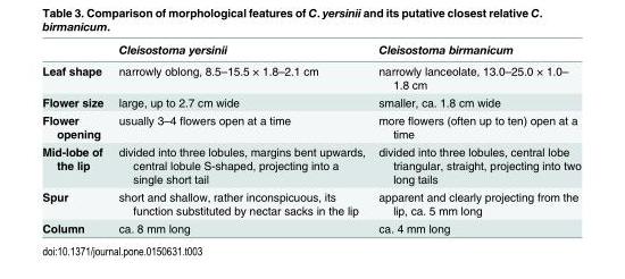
<table><thead><tr><td></td><td>Cleisostoma yersinii</td><td>Cleisostoma birmanicum</td></tr></thead><tbody><tr><td>Leaf shape</td><td>narrowly oblong, 8.5–15.5 × 1.8–2.1 cm</td><td>narrowly lanceolate, 13.0–25.0 × 1.0– 1.8 cm</td></tr><tr><td>Flower size</td><td>large, up to 2.7 cm wide</td><td>smaller, ca. 1.8 cm wide</td></tr><tr><td>Flower opening</td><td>usually 3–4 flowers open at a time</td><td>more flowers (often up to ten) open at a time</td></tr><tr><td>Mid-lobe of the lip</td><td>divided into three lobules, margins bent upwards, central lobule S-shaped, projecting into a single short tail</td><td>divided into three lobules, central lobe triangular, straight, projecting into two long tails</td></tr><tr><td>Spur</td><td>short and shallow, rather inconspicuous, its function substituted by nectar sacks in the lip</td><td>apparent and clearly projecting from the lip, ca. 5 mm long</td></tr><tr><td>Column</td><td>ca. 8 mm long</td><td>ca. 4 mm long</td></tr></tbody></table>